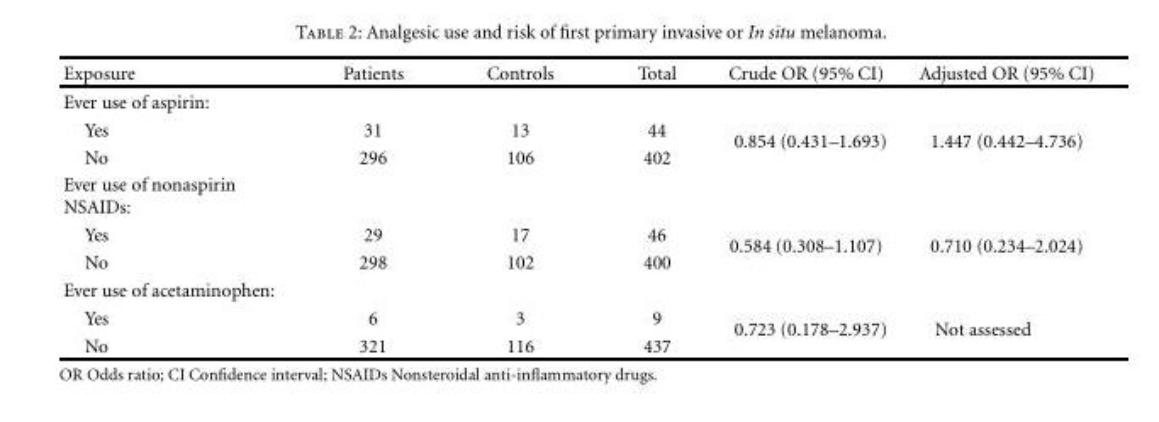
<table><thead><tr><td>Exposure</td><td>Patients</td><td>Controls</td><td>Total</td><td>Crude OR (95% CI)</td><td>Adjusted OR (95% CI)</td></tr></thead><tbody><tr><td colspan="6">Ever use of aspirin:</td></tr><tr><td>Yes</td><td>31</td><td>13</td><td>44</td><td rowspan="2">0.854 (0.431–1.693)</td><td rowspan="2">1.447 (0.442–4.736)</td></tr><tr><td>No</td><td>296</td><td>106</td><td>402</td></tr><tr><td colspan="6">Ever use of nonaspirin NSAIDs:</td></tr><tr><td>Yes</td><td>29</td><td>17</td><td>46</td><td rowspan="2">0.584 (0.308–1.107)</td><td rowspan="2">0.710 (0.234–2.024)</td></tr><tr><td>No</td><td>298</td><td>102</td><td>400</td></tr><tr><td colspan="6">Ever use of acetaminophen:</td></tr><tr><td>Yes</td><td>6</td><td>3</td><td>9</td><td rowspan="2">0.723 (0.178–2.937)</td><td rowspan="2">Not assessed</td></tr><tr><td>No</td><td>321</td><td>116</td><td>437</td></tr></tbody></table>